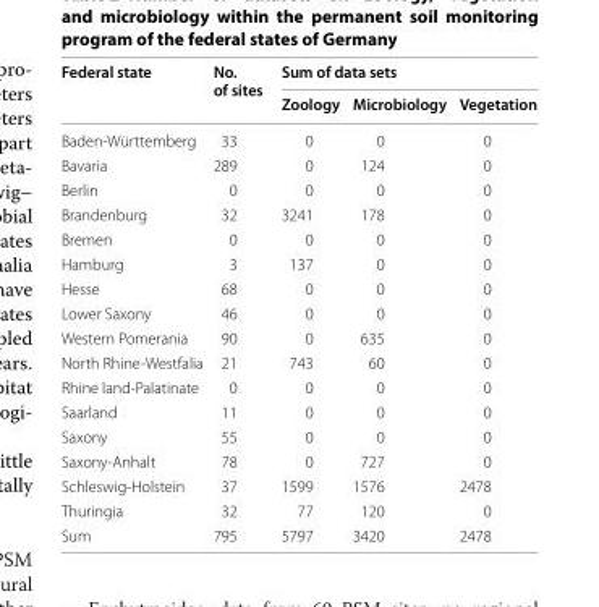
<table><thead><tr><td rowspan="2">Federal state</td><td rowspan="2">No. of sites</td><td colspan="3">Sum of data sets</td></tr><tr><td>Zoology</td><td>Microbiology</td><td>Vegetation</td></tr></thead><tbody><tr><td>Baden‑Württemberg</td><td>33</td><td>0</td><td>0</td><td>0</td></tr><tr><td>Bavaria</td><td>289</td><td>0</td><td>124</td><td>0</td></tr><tr><td>Berlin</td><td>0</td><td>0</td><td>0</td><td>0</td></tr><tr><td>Brandenburg</td><td>32</td><td>3241</td><td>178</td><td>0</td></tr><tr><td>Bremen</td><td>0</td><td>0</td><td>0</td><td>0</td></tr><tr><td>Hamburg</td><td>3</td><td>137</td><td>0</td><td>0</td></tr><tr><td>Hesse</td><td>68</td><td>0</td><td>0</td><td>0</td></tr><tr><td>Lower Saxony</td><td>46</td><td>0</td><td>0</td><td>0</td></tr><tr><td>Western Pomerania</td><td>90</td><td>0</td><td>635</td><td>0</td></tr><tr><td>North Rhine‑Westfalia</td><td>21</td><td>743</td><td>60</td><td>0</td></tr><tr><td>Rhine land‑Palatinate</td><td>0</td><td>0</td><td>0</td><td>0</td></tr><tr><td>Saarland</td><td>11</td><td>0</td><td>0</td><td>0</td></tr><tr><td>Saxony</td><td>55</td><td>0</td><td>0</td><td>0</td></tr><tr><td>Saxony‑Anhalt</td><td>78</td><td>0</td><td>727</td><td>0</td></tr><tr><td>Schleswig‑Holstein</td><td>37</td><td>1599</td><td>1576</td><td>2478</td></tr><tr><td>Thuringia</td><td>32</td><td>77</td><td>120</td><td>0</td></tr><tr><td>Sum</td><td>795</td><td>5797</td><td>3420</td><td>2478</td></tr></tbody></table>